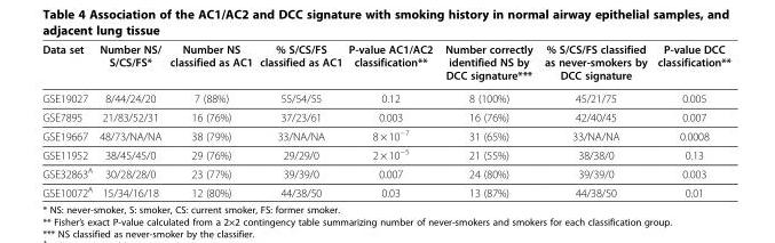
<table><thead><tr><td>Data set</td><td>Number NS/ S/CS/FS*</td><td>Number NS classified as AC1</td><td>% S/CS/FS classified as AC1</td><td>P-value AC1/AC2 classification**</td><td>Number correctly identified NS by DCC signature***</td><td>% S/CS/FS classified as never-smokers by DCC signature</td><td>P-value DCC classification**</td></tr></thead><tbody><tr><td>GSE19027</td><td>8/44/24/20</td><td>7 (88%)</td><td>55/54/55</td><td>0.12</td><td>8 (100%)</td><td>45/21/75</td><td>0.005</td></tr><tr><td>GSE7895</td><td>21/83/52/31</td><td>16 (76%)</td><td>37/23/61</td><td>0.003</td><td>16 (76%)</td><td>42/40/45</td><td>0.007</td></tr><tr><td>GSE19667</td><td>48/73/NA/NA</td><td>38 (79%)</td><td>33/NA/NA</td><td>8 × 10<sup>−7</sup></td><td>31 (65%)</td><td>33/NA/NA</td><td>0.0008</td></tr><tr><td>GSE11952</td><td>38/45/45/0</td><td>29 (76%)</td><td>29/29/0</td><td>2 × 10<sup>−5</sup></td><td>21 (55%)</td><td>38/38/0</td><td>0.13</td></tr><tr><td>GSE32863<sup>A</sup></td><td>30/28/28/0</td><td>23 (77%)</td><td>39/39/0</td><td>0.007</td><td>24 (80%)</td><td>39/39/0</td><td>0.003</td></tr><tr><td>GSE10072<sup>A</sup></td><td>15/34/16/18</td><td>12 (80%)</td><td>44/38/50</td><td>0.03</td><td>13 (87%)</td><td>44/38/50</td><td>0.01</td></tr></tbody></table>